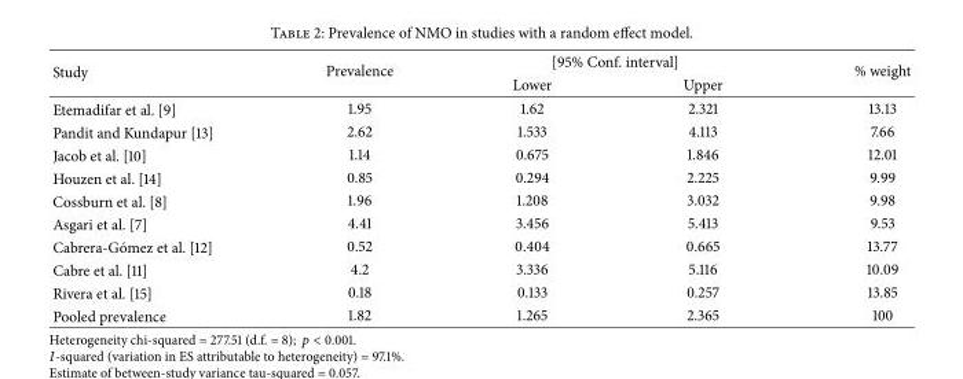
<table><thead><tr><td rowspan="2">Study</td><td rowspan="2">Prevalence</td><td colspan="2">[95% Conf. interval]</td><td rowspan="2">% weight</td></tr><tr><td>Lower</td><td>Upper</td></tr></thead><tbody><tr><td>Etemadifar et al. [9]</td><td>1.95</td><td>1.62</td><td>2.321</td><td>13.13</td></tr><tr><td>Pandit and Kundapur [13]</td><td>2.62</td><td>1.533</td><td>4.113</td><td>7.66</td></tr><tr><td>Jacob et al. [10]</td><td>1.14</td><td>0.675</td><td>1.846</td><td>12.01</td></tr><tr><td>Houzen et al. [14]</td><td>0.85</td><td>0.294</td><td>2.225</td><td>9.99</td></tr><tr><td>Cossburn et al. [8]</td><td>1.96</td><td>1.208</td><td>3.032</td><td>9.98</td></tr><tr><td>Asgari et al. [7]</td><td>4.41</td><td>3.456</td><td>5.413</td><td>9.53</td></tr><tr><td>Cabrera-G´omez et al. [12]</td><td>0.52</td><td>0.404</td><td>0.665</td><td>13.77</td></tr><tr><td>Cabre et al. [11]</td><td>4.2</td><td>3.336</td><td>5.116</td><td>10.09</td></tr><tr><td>Rivera et al. [15]</td><td>0.18</td><td>0.133</td><td>0.257</td><td>13.85</td></tr><tr><td>Pooled prevalence</td><td>1.82</td><td>1.265</td><td>2.365</td><td>100</td></tr></tbody></table>